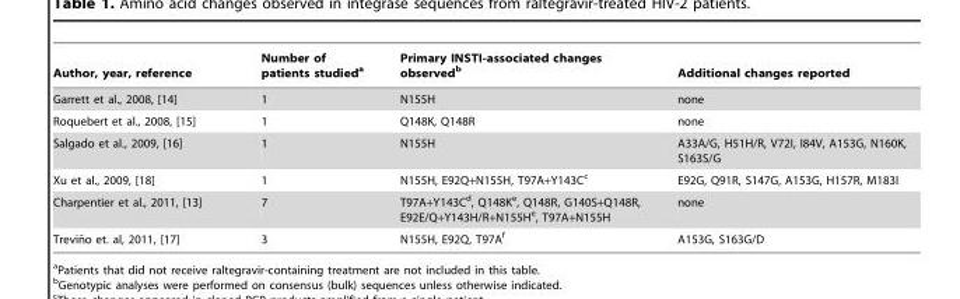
<table><thead><tr><td>Author, year, reference</td><td>Number of patients studied<sup>a</sup></td><td>Primary INSTI-associated changes observed<sup>b</sup></td><td>Additional changes reported</td></tr></thead><tbody><tr><td>Garrett et al., 2008, [14]</td><td>1</td><td>N155H</td><td>none</td></tr><tr><td>Roquebert et al., 2008, [15]</td><td>1</td><td>Q148K, Q148R</td><td>none</td></tr><tr><td>Salgado et al., 2009, [16]</td><td>1</td><td>N155H</td><td>A33A/G, H51H/R, V72I, I84V, A153G, N160K, S163S/G</td></tr><tr><td>Xu et al., 2009, [18]</td><td>1</td><td>N155H, E92Q+N155H, T97A+Y143C<sup>c</sup></td><td>E92G, Q91R, S147G, A153G, H157R, M183I</td></tr><tr><td>Charpentier et al., 2011, [13]</td><td>7</td><td>T97A+Y143C<sup>d</sup>, Q148K<sup>e</sup>, Q148R, G140S+Q148R, E92E/Q+Y143H/R+N155H<sup>e</sup>, T97A+N155H</td><td>none</td></tr><tr><td>Trevin˜o et. al, 2011, [17]</td><td>3</td><td>N155H, E92Q, T97A<sup>f</sup></td><td>A153G, S163G/D</td></tr></tbody></table>